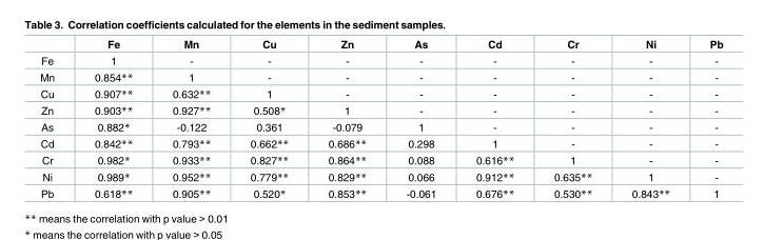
<table><thead><tr><td></td><td>Fe</td><td>Mn</td><td>Cu</td><td>Zn</td><td>As</td><td>Cd</td><td>Cr</td><td>Ni</td><td>Pb</td></tr></thead><tbody><tr><td>Fe</td><td>1</td><td>-</td><td>-</td><td>-</td><td>-</td><td>-</td><td>-</td><td>-</td><td>-</td></tr><tr><td>Mn</td><td>0.854**</td><td>1</td><td>-</td><td>-</td><td>-</td><td>-</td><td>-</td><td>-</td><td>-</td></tr><tr><td>Cu</td><td>0.907**</td><td>0.632**</td><td>1</td><td>-</td><td>-</td><td>-</td><td>-</td><td>-</td><td>-</td></tr><tr><td>Zn</td><td>0.903**</td><td>0.927**</td><td>0.508*</td><td>1</td><td>-</td><td>-</td><td>-</td><td>-</td><td>-</td></tr><tr><td>As</td><td>0.882*</td><td>-0.122</td><td>0.361</td><td>-0.079</td><td>1</td><td>-</td><td>-</td><td>-</td><td>-</td></tr><tr><td>Cd</td><td>0.842**</td><td>0.793**</td><td>0.662**</td><td>0.686**</td><td>0.298</td><td>1</td><td>-</td><td>-</td><td>-</td></tr><tr><td>Cr</td><td>0.982*</td><td>0.933**</td><td>0.827**</td><td>0.864**</td><td>0.088</td><td>0.616**</td><td>1</td><td>-</td><td>-</td></tr><tr><td>Ni</td><td>0.989*</td><td>0.952**</td><td>0.779**</td><td>0.829**</td><td>0.066</td><td>0.912**</td><td>0.635**</td><td>1</td><td>-</td></tr><tr><td>Pb</td><td>0.618**</td><td>0.905**</td><td>0.520*</td><td>0.853**</td><td>-0.061</td><td>0.676**</td><td>0.530**</td><td>0.843**</td><td>1</td></tr></tbody></table>